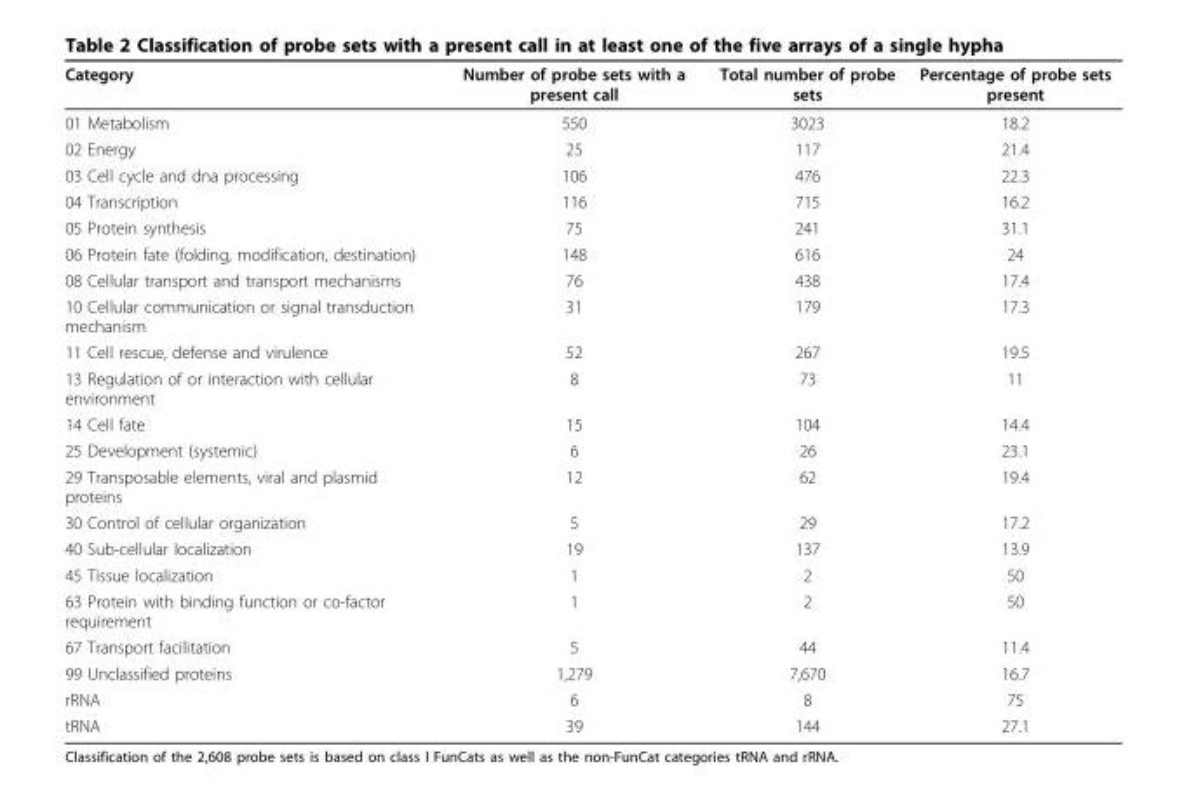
<table><thead><tr><td>Category</td><td>Number of probe sets with a present call</td><td>Total number of probe sets</td><td>Percentage of probe sets present</td></tr></thead><tbody><tr><td>01 Metabolism</td><td>550</td><td>3023</td><td>18.2</td></tr><tr><td>02 Energy</td><td>25</td><td>117</td><td>21.4</td></tr><tr><td>03 Cell cycle and dna processing</td><td>106</td><td>476</td><td>22.3</td></tr><tr><td>04 Transcription</td><td>116</td><td>715</td><td>16.2</td></tr><tr><td>05 Protein synthesis</td><td>75</td><td>241</td><td>31.1</td></tr><tr><td>06 Protein fate (folding, modification, destination)</td><td>148</td><td>616</td><td>24</td></tr><tr><td>08 Cellular transport and transport mechanisms</td><td>76</td><td>438</td><td>17.4</td></tr><tr><td>10 Cellular communication or signal transduction mechanism</td><td>31</td><td>179</td><td>17.3</td></tr><tr><td>11 Cell rescue, defense and virulence</td><td>52</td><td>267</td><td>19.5</td></tr><tr><td>13 Regulation of or interaction with cellular environment</td><td>8</td><td>73</td><td>11</td></tr><tr><td>14 Cell fate</td><td>15</td><td>104</td><td>14.4</td></tr><tr><td>25 Development (systemic)</td><td>6</td><td>26</td><td>23.1</td></tr><tr><td>29 Transposable elements, viral and plasmid proteins</td><td>12</td><td>62</td><td>19.4</td></tr><tr><td>30 Control of cellular organization</td><td>5</td><td>29</td><td>17.2</td></tr><tr><td>40 Sub-cellular localization</td><td>19</td><td>137</td><td>13.9</td></tr><tr><td>45 Tissue localization</td><td>1</td><td>2</td><td>50</td></tr><tr><td>63 Protein with binding function or co-factor requirement</td><td>1</td><td>2</td><td>50</td></tr><tr><td>67 Transport facilitation</td><td>5</td><td>44</td><td>11.4</td></tr><tr><td>99 Unclassified proteins</td><td>1,279</td><td>7,670</td><td>16.7</td></tr><tr><td>rRNA</td><td>6</td><td>8</td><td>75</td></tr><tr><td>tRNA</td><td>39</td><td>144</td><td>27.1</td></tr></tbody></table>